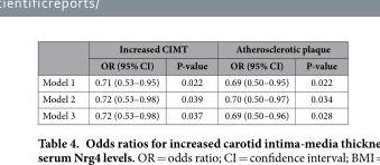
<table><thead><tr><td rowspan="2"></td><td colspan="2">Increased CIMT</td><td colspan="2">Atherosclerotic plaque</td></tr><tr><td>OR (95% CI)</td><td>P-value</td><td>OR (95% CI)</td><td>P-value</td></tr></thead><tbody><tr><td>Model 1</td><td>0.71 (0.53–0.95)</td><td>0.022</td><td>0.69 (0.50–0.95)</td><td>0.022</td></tr><tr><td>Model 2</td><td>0.72 (0.53–0.98)</td><td>0.039</td><td>0.70 (0.50–0.97)</td><td>0.034</td></tr><tr><td>Model 3</td><td>0.72 (0.53–0.98)</td><td>0.037</td><td>0.69 (0.50–0.96)</td><td>0.028</td></tr></tbody></table>